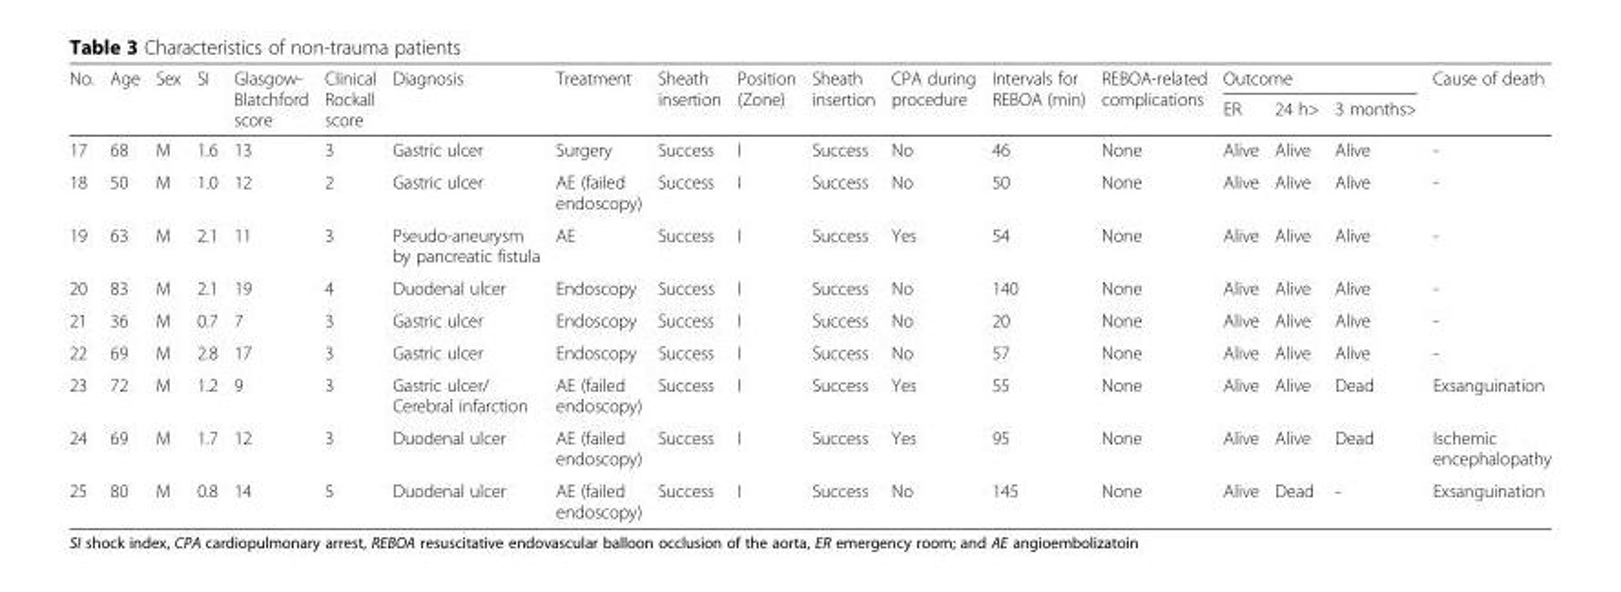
<table><thead><tr><td rowspan="2">No.</td><td rowspan="2">Age</td><td rowspan="2">Sex</td><td rowspan="2">SI</td><td rowspan="2">Glasgow- Blatchford score</td><td rowspan="2">Clinical Rockall score</td><td rowspan="2">Diagnosis</td><td rowspan="2">Treatment</td><td rowspan="2">Sheath insertion</td><td rowspan="2">Position (Zone)</td><td rowspan="2">Sheath insertion</td><td rowspan="2">CPA during procedure</td><td rowspan="2">Intervals for REBOA (min)</td><td rowspan="2">REBOA-related complications</td><td colspan="3">Outcome</td><td rowspan="2">Cause of death</td></tr><tr><td>ER</td><td>24 h&gt;</td><td>3 months&gt;</td></tr></thead><tbody><tr><td>17</td><td>68</td><td>M</td><td>1.6</td><td>13</td><td>3</td><td>Gastric ulcer</td><td>Surgery</td><td>Success</td><td>I</td><td>Success</td><td>No</td><td>46</td><td>None</td><td>Alive</td><td>Alive</td><td>Alive</td><td>-</td></tr><tr><td>18</td><td>50</td><td>M</td><td>1.0</td><td>12</td><td>2</td><td>Gastric ulcer</td><td>AE (failed endoscopy)</td><td>Success</td><td>I</td><td>Success</td><td>No</td><td>50</td><td>None</td><td>Alive</td><td>Alive</td><td>Alive</td><td>-</td></tr><tr><td>19</td><td>63</td><td>M</td><td>2.1</td><td>11</td><td>3</td><td>Pseudo-aneurysm by pancreatic fistula</td><td>AE</td><td>Success</td><td>I</td><td>Success</td><td>Yes</td><td>54</td><td>None</td><td>Alive</td><td>Alive</td><td>Alive</td><td>-</td></tr><tr><td>20</td><td>83</td><td>M</td><td>2.1</td><td>19</td><td>4</td><td>Duodenal ulcer</td><td>Endoscopy</td><td>Success</td><td>I</td><td>Success</td><td>No</td><td>140</td><td>None</td><td>Alive</td><td>Alive</td><td>Alive</td><td>-</td></tr><tr><td>21</td><td>36</td><td>M</td><td>0.7</td><td>7</td><td>3</td><td>Gastric ulcer</td><td>Endoscopy</td><td>Success</td><td>I</td><td>Success</td><td>No</td><td>20</td><td>None</td><td>Alive</td><td>Alive</td><td>Alive</td><td>-</td></tr><tr><td>22</td><td>69</td><td>M</td><td>2.8</td><td>17</td><td>3</td><td>Gastric ulcer</td><td>Endoscopy</td><td>Success</td><td>I</td><td>Success</td><td>No</td><td>57</td><td>None</td><td>Alive</td><td>Alive</td><td>Alive</td><td>-</td></tr><tr><td>23</td><td>72</td><td>M</td><td>1.2</td><td>9</td><td>3</td><td>Gastric ulcer/ Cerebral infarction</td><td>AE (failed endoscopy)</td><td>Success</td><td>I</td><td>Success</td><td>Yes</td><td>55</td><td>None</td><td>Alive</td><td>Alive</td><td>Dead</td><td>Exsanguination</td></tr><tr><td>24</td><td>69</td><td>M</td><td>1.7</td><td>12</td><td>3</td><td>Duodenal ulcer</td><td>AE (failed endoscopy)</td><td>Success</td><td>I</td><td>Success</td><td>Yes</td><td>95</td><td>None</td><td>Alive</td><td>Alive</td><td>Dead</td><td>Ischemic encephalopathy</td></tr><tr><td>25</td><td>80</td><td>M</td><td>0.8</td><td>14</td><td>5</td><td>Duodenal ulcer</td><td>AE (failed endoscopy)</td><td>Success</td><td>I</td><td>Success</td><td>No</td><td>145</td><td>None</td><td>Alive</td><td>Dead</td><td>-</td><td>Exsanguination</td></tr></tbody></table>